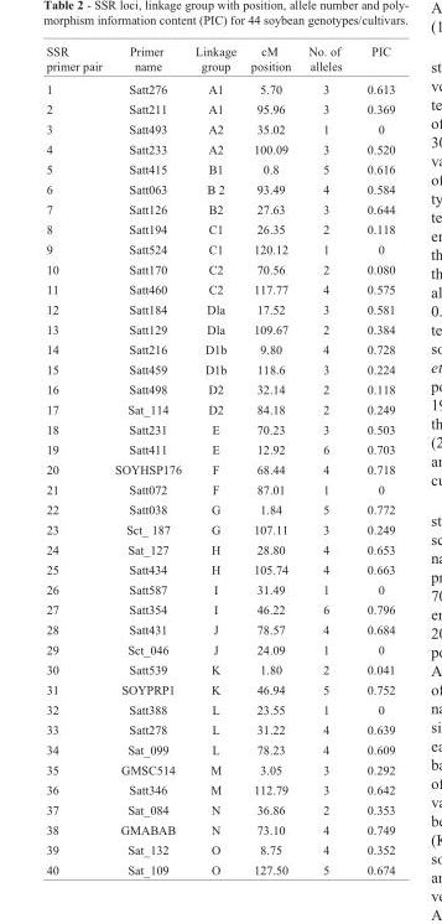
<table><thead><tr><td>SSR primer pair</td><td>Primer name</td><td>Linkage group</td><td>cM position</td><td>No. of alleles</td><td>PIC</td></tr></thead><tbody><tr><td>1</td><td>Satt276</td><td>A1</td><td>5.70</td><td>3</td><td>0.613</td></tr><tr><td>2</td><td>Satt211</td><td>A1</td><td>95.96</td><td>3</td><td>0.369</td></tr><tr><td>3</td><td>Satt493</td><td>A2</td><td>35.02</td><td>1</td><td>0</td></tr><tr><td>4</td><td>Satt233</td><td>A2</td><td>100.09</td><td>3</td><td>0.520</td></tr><tr><td>5</td><td>Satt415</td><td>B1</td><td>0.8</td><td>5</td><td>0.616</td></tr><tr><td>6</td><td>Satt063</td><td>B 2</td><td>93.49</td><td>4</td><td>0.584</td></tr><tr><td>7</td><td>Satt126</td><td>B2</td><td>27.63</td><td>3</td><td>0.644</td></tr><tr><td>8</td><td>Satt194</td><td>C1</td><td>26.35</td><td>2</td><td>0.118</td></tr><tr><td>9</td><td>Satt524</td><td>C1</td><td>120.12</td><td>1</td><td>0</td></tr><tr><td>10</td><td>Satt170</td><td>C2</td><td>70.56</td><td>2</td><td>0.080</td></tr><tr><td>11</td><td>Satt460</td><td>C2</td><td>117.77</td><td>4</td><td>0.575</td></tr><tr><td>12</td><td>Satt184</td><td>Dla</td><td>17.52</td><td>3</td><td>0.581</td></tr><tr><td>13</td><td>Satt129</td><td>Dla</td><td>109.67</td><td>2</td><td>0.384</td></tr><tr><td>14</td><td>Satt216</td><td>D1b</td><td>9.80</td><td>4</td><td>0.728</td></tr><tr><td>15</td><td>Satt459</td><td>D1b</td><td>118.6</td><td>3</td><td>0.224</td></tr><tr><td>16</td><td>Satt498</td><td>D2</td><td>32.14</td><td>2</td><td>0.118</td></tr><tr><td>17</td><td>Sat_114</td><td>D2</td><td>84.18</td><td>2</td><td>0.249</td></tr><tr><td>18</td><td>Satt231</td><td>E</td><td>70.23</td><td>3</td><td>0.503</td></tr><tr><td>19</td><td>Satt411</td><td>E</td><td>12.92</td><td>6</td><td>0.703</td></tr><tr><td>20</td><td>SOYHSP176</td><td>F</td><td>68.44</td><td>4</td><td>0.718</td></tr><tr><td>21</td><td>Satt072</td><td>F</td><td>87.01</td><td>1</td><td>0</td></tr><tr><td>22</td><td>Satt038</td><td>G</td><td>1.84</td><td>5</td><td>0.772</td></tr><tr><td>23</td><td>Sct_ 187</td><td>G</td><td>107.11</td><td>3</td><td>0.249</td></tr><tr><td>24</td><td>Sat_127</td><td>H</td><td>28.80</td><td>4</td><td>0.653</td></tr><tr><td>25</td><td>Satt434</td><td>H</td><td>105.74</td><td>4</td><td>0.663</td></tr><tr><td>26</td><td>Satt587</td><td>I</td><td>31.49</td><td>1</td><td>0</td></tr><tr><td>27</td><td>Satt354</td><td>I</td><td>46.22</td><td>6</td><td>0.796</td></tr><tr><td>28</td><td>Satt431</td><td>J</td><td>78.57</td><td>4</td><td>0.684</td></tr><tr><td>29</td><td>Sct_046</td><td>J</td><td>24.09</td><td>1</td><td>0</td></tr><tr><td>30</td><td>Satt539</td><td>K</td><td>1.80</td><td>2</td><td>0.041</td></tr><tr><td>31</td><td>SOYPRP1</td><td>K</td><td>46.94</td><td>5</td><td>0.752</td></tr><tr><td>32</td><td>Satt388</td><td>L</td><td>23.55</td><td>1</td><td>0</td></tr><tr><td>33</td><td>Satt278</td><td>L</td><td>31.22</td><td>4</td><td>0.639</td></tr><tr><td>34</td><td>Sat_099</td><td>L</td><td>78.23</td><td>4</td><td>0.609</td></tr><tr><td>35</td><td>GMSC514</td><td>M</td><td>3.05</td><td>3</td><td>0.292</td></tr><tr><td>36</td><td>Satt346</td><td>M</td><td>112.79</td><td>3</td><td>0.642</td></tr><tr><td>37</td><td>Sat_084</td><td>N</td><td>36.86</td><td>2</td><td>0.353</td></tr><tr><td>38</td><td>GMABAB</td><td>N</td><td>73.10</td><td>4</td><td>0.749</td></tr><tr><td>39</td><td>Sat_132</td><td>O</td><td>8.75</td><td>4</td><td>0.352</td></tr><tr><td>40</td><td>Sat_109</td><td>O</td><td>127.50</td><td>5</td><td>0.674</td></tr></tbody></table>